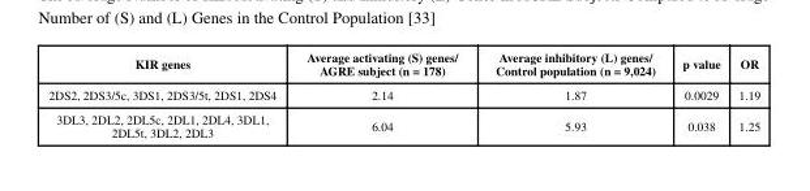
<table><thead><tr><td>KIR genes</td><td>Average activating (S) genes/ AGRE subject (n = 178)</td><td>Average inhibitory (L) genes/ Control population (n = 9,024)</td><td>p value</td><td>OR</td></tr></thead><tbody><tr><td>2DS2, 2DS3/5c, 3DS1, 2DS3/5t, 2DS1, 2DS4</td><td>2.14</td><td>1.87</td><td>0.0029</td><td>1.19</td></tr><tr><td>3DL3, 2DL2, 2DL5c, 2DL1, 2DL4, 3DL1, 2DL5t, 3DL2, 2DL3</td><td>6.04</td><td>5.93</td><td>0.038</td><td>1.25</td></tr></tbody></table>